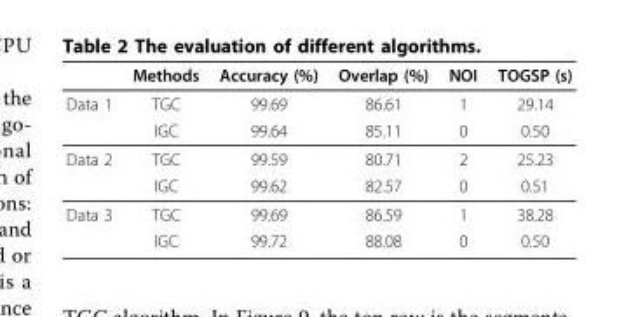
<table><thead><tr><td></td><td>Methods</td><td>Accuracy (%)</td><td>Overlap (%)</td><td>NOI</td><td>TOGSP (s)</td></tr></thead><tbody><tr><td rowspan="2">Data 1</td><td>TGC</td><td>99.69</td><td>86.61</td><td>1</td><td>29.14</td></tr><tr><td>IGC</td><td>99.64</td><td>85.11</td><td>0</td><td>0.50</td></tr><tr><td rowspan="2">Data 2</td><td>TGC</td><td>99.59</td><td>80.71</td><td>2</td><td>25.23</td></tr><tr><td>IGC</td><td>99.62</td><td>82.57</td><td>0</td><td>0.51</td></tr><tr><td rowspan="2">Data 3</td><td>TGC</td><td>99.69</td><td>86.59</td><td>1</td><td>38.28</td></tr><tr><td>IGC</td><td>99.72</td><td>88.08</td><td>0</td><td>0.50</td></tr></tbody></table>